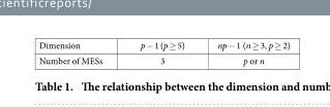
<table><tbody><tr><td>Dimension</td><td>p − 1 (p ≥ 5)</td><td>np − 1 (n ≥ 3, p ≥ 2)</td></tr><tr><td>Number of MESs</td><td>3</td><td>p or n</td></tr></tbody></table>